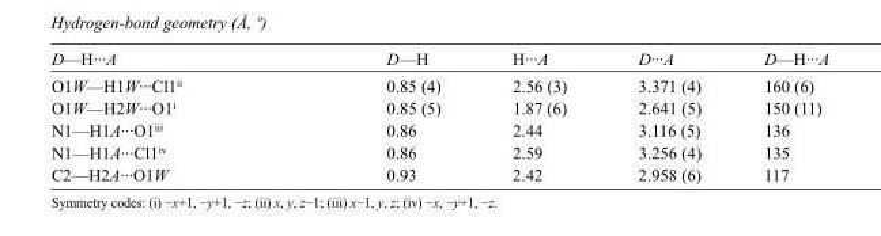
<table><tbody><tr><td>D—H···A</td><td>D—H</td><td>H···A</td><td>D···A</td><td>D—H···A</td></tr><tr><td>O1W—H1W···Cl1<sup>ii</sup></td><td>0.85 (4)</td><td>2.56 (3)</td><td>3.371 (4)</td><td>160 (6)</td></tr><tr><td>O1W—H2W···O1<sup>i</sup></td><td>0.85 (5)</td><td>1.87 (6)</td><td>2.641 (5)</td><td>150 (11)</td></tr><tr><td>N1—H1A···O1<sup>iii</sup></td><td>0.86</td><td>2.44</td><td>3.116 (5)</td><td>136</td></tr><tr><td>N1—H1A···Cl1<sup>iv</sup></td><td>0.86</td><td>2.59</td><td>3.256 (4)</td><td>135</td></tr><tr><td>C2—H2A···O1W</td><td>0.93</td><td>2.42</td><td>2.958 (6)</td><td>117</td></tr></tbody></table>